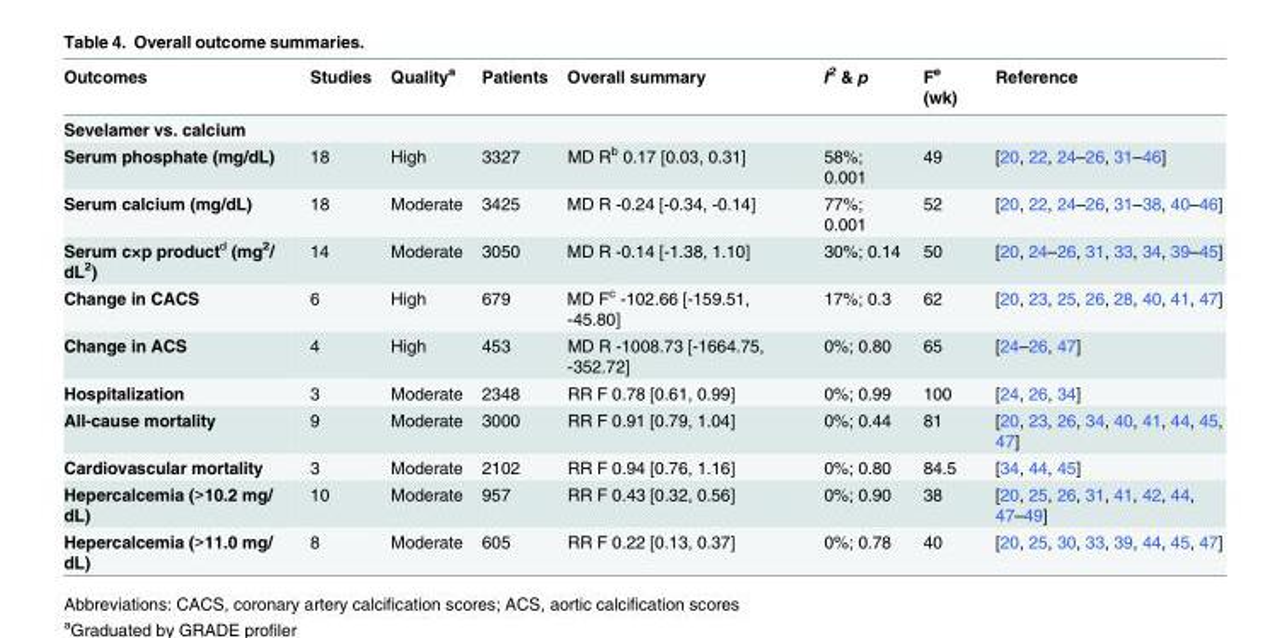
<table><thead><tr><td>Outcomes</td><td>Studies</td><td>Quality<sup>a</sup></td><td>Patients</td><td>Overall summary</td><td>I<sup>2</sup> &amp; p</td><td>F<sup>e</sup> (wk)</td><td>Reference</td></tr></thead><tbody><tr><td colspan="8">Sevelamer vs. calcium</td></tr><tr><td>Serum phosphate (mg/dL)</td><td>18</td><td>High</td><td>3327</td><td>MD R<sup>b</sup> 0.17 [0.03, 0.31]</td><td>58%; 0.001</td><td>49</td><td>[20, 22, 24–26, 31–46]</td></tr><tr><td>Serum calcium (mg/dL)</td><td>18</td><td>Moderate</td><td>3425</td><td>MD R -0.24 [-0.34, -0.14]</td><td>77%; 0.001</td><td>52</td><td>[20, 22, 24–26, 31–38, 40–46]</td></tr><tr><td>Serum c×p product<sup>d</sup> (mg<sup>2</sup>/ dL<sup>2</sup>)</td><td>14</td><td>Moderate</td><td>3050</td><td>MD R -0.14 [-1.38, 1.10]</td><td>30%; 0.14</td><td>50</td><td>[20, 24–26, 31, 33, 34, 39–45]</td></tr><tr><td>Change in CACS</td><td>6</td><td>High</td><td>679</td><td>MD F<sup>c</sup> -102.66 [-159.51, -45.80]</td><td>17%; 0.3</td><td>62</td><td>[20, 23, 25, 26, 28, 40, 41, 47]</td></tr><tr><td>Change in ACS</td><td>4</td><td>High</td><td>453</td><td>MD R -1008.73 [-1664.75, -352.72]</td><td>0%; 0.80</td><td>65</td><td>[24–26, 47]</td></tr><tr><td>Hospitalization</td><td>3</td><td>Moderate</td><td>2348</td><td>RR F 0.78 [0.61, 0.99]</td><td>0%; 0.99</td><td>100</td><td>[24, 26, 34]</td></tr><tr><td>All-cause mortality</td><td>9</td><td>Moderate</td><td>3000</td><td>RR F 0.91 [0.79, 1.04]</td><td>0%; 0.44</td><td>81</td><td>[20, 23, 26, 34, 40, 41, 44, 45, 47]</td></tr><tr><td>Cardiovascular mortality</td><td>3</td><td>Moderate</td><td>2102</td><td>RR F 0.94 [0.76, 1.16]</td><td>0%; 0.80</td><td>84.5</td><td>[34, 44, 45]</td></tr><tr><td>Hepercalcemia (&gt;10.2 mg/ dL)</td><td>10</td><td>Moderate</td><td>957</td><td>RR F 0.43 [0.32, 0.56]</td><td>0%; 0.90</td><td>38</td><td>[20, 25, 26, 31, 41, 42, 44, 47–49]</td></tr><tr><td>Hepercalcemia (&gt;11.0 mg/ dL)</td><td>8</td><td>Moderate</td><td>605</td><td>RR F 0.22 [0.13, 0.37]</td><td>0%; 0.78</td><td>40</td><td>[20, 25, 30, 33, 39, 44, 45, 47]</td></tr></tbody></table>